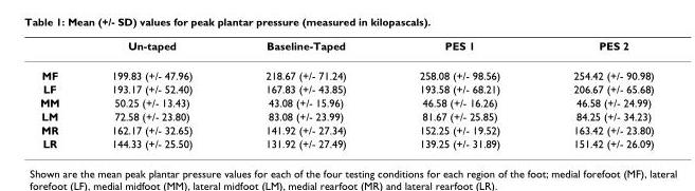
<table><thead><tr><td></td><td>Un-taped</td><td>Baseline-Taped</td><td>PES 1</td><td>PES 2</td></tr></thead><tbody><tr><td>MF</td><td>199.83 (+/- 47.96)</td><td>218.67 (+/- 71.24)</td><td>258.08 (+/- 98.56)</td><td>254.42 (+/- 90.98)</td></tr><tr><td>LF</td><td>193.17 (+/- 52.40)</td><td>167.83 (+/- 43.85)</td><td>193.58 (+/- 68.21)</td><td>206.67 (+/- 65.68)</td></tr><tr><td>MM</td><td>50.25 (+/- 13.43)</td><td>43.08 (+/- 15.96)</td><td>46.58 (+/- 16.26)</td><td>46.58 (+/- 24.99)</td></tr><tr><td>LM</td><td>72.58 (+/- 23.80)</td><td>83.08 (+/- 23.99)</td><td>81.67 (+/- 25.85)</td><td>84.25 (+/- 34.23)</td></tr><tr><td>MR</td><td>162.17 (+/- 32.65)</td><td>141.92 (+/- 27.34)</td><td>152.25 (+/- 19.52)</td><td>163.42 (+/- 23.80)</td></tr><tr><td>LR</td><td>144.33 (+/- 25.50)</td><td>131.92 (+/- 27.49)</td><td>139.25 (+/- 31.89)</td><td>151.42 (+/- 26.09)</td></tr></tbody></table>